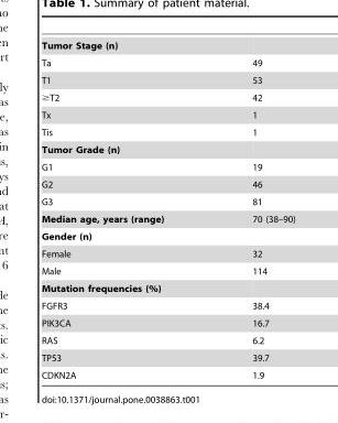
<table><tbody><tr><td colspan="2">Tumor Stage (n)</td></tr><tr><td>Ta</td><td>49</td></tr><tr><td>T1</td><td>53</td></tr><tr><td>≥T2</td><td>42</td></tr><tr><td>Tx</td><td>1</td></tr><tr><td>Tis</td><td>1</td></tr><tr><td colspan="2">Tumor Grade (n)</td></tr><tr><td>G1</td><td>19</td></tr><tr><td>G2</td><td>46</td></tr><tr><td>G3</td><td>81</td></tr><tr><td>Median age, years (range)</td><td>70 (38–90)</td></tr><tr><td colspan="2">Gender (n)</td></tr><tr><td>Female</td><td>32</td></tr><tr><td>Male</td><td>114</td></tr><tr><td colspan="2">Mutation frequencies (%)</td></tr><tr><td>FGFR3</td><td>38.4</td></tr><tr><td>PIK3CA</td><td>16.7</td></tr><tr><td>RAS</td><td>6.2</td></tr><tr><td>TP53</td><td>39.7</td></tr><tr><td>CDKN2A</td><td>1.9</td></tr></tbody></table>